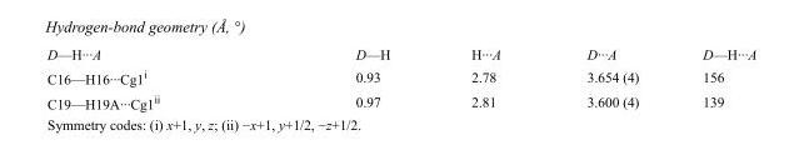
<table><tbody><tr><td>D—H···A</td><td>D—H</td><td>H···A</td><td>D···A</td><td>D—H···A</td></tr><tr><td>C16—H16···Cg1<sup>i</sup></td><td>0.93</td><td>2.78</td><td>3.654 (4)</td><td>156</td></tr><tr><td>C19—H19A···Cg1<sup>ii</sup></td><td>0.97</td><td>2.81</td><td>3.600 (4)</td><td>139</td></tr></tbody></table>